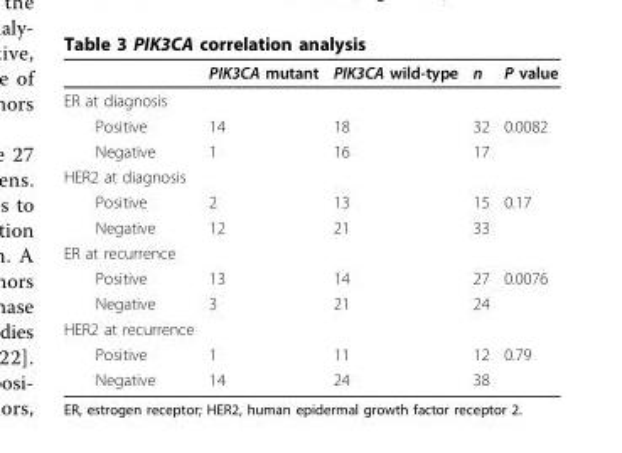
<table><thead><tr><td></td><td>PIK3CA mutant</td><td>PIK3CA wild-type</td><td>n</td><td>P value</td></tr></thead><tbody><tr><td colspan="5">ER at diagnosis</td></tr><tr><td>Positive</td><td>14</td><td>18</td><td>32</td><td>0.0082</td></tr><tr><td>Negative</td><td>1</td><td>16</td><td>17</td><td></td></tr><tr><td colspan="5">HER2 at diagnosis</td></tr><tr><td>Positive</td><td>2</td><td>13</td><td>15</td><td>0.17</td></tr><tr><td>Negative</td><td>12</td><td>21</td><td>33</td><td></td></tr><tr><td colspan="5">ER at recurrence</td></tr><tr><td>Positive</td><td>13</td><td>14</td><td>27</td><td>0.0076</td></tr><tr><td>Negative</td><td>3</td><td>21</td><td>24</td><td></td></tr><tr><td colspan="5">HER2 at recurrence</td></tr><tr><td>Positive</td><td>1</td><td>11</td><td>12</td><td>0.79</td></tr><tr><td>Negative</td><td>14</td><td>24</td><td>38</td><td></td></tr></tbody></table>